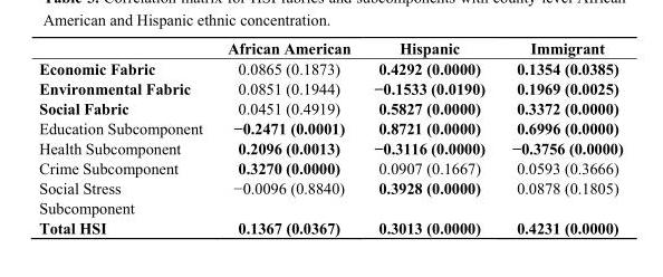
<table><thead><tr><td></td><td>African American</td><td>Hispanic</td><td>Immigrant</td></tr></thead><tbody><tr><td>Economic Fabric</td><td>0.0865 (0.1873)</td><td>0.4292 (0.0000)</td><td>0.1354 (0.0385)</td></tr><tr><td>Environmental Fabric</td><td>0.0851 (0.1944)</td><td>−0.1533 (0.0190)</td><td>0.1969 (0.0025)</td></tr><tr><td>Social Fabric</td><td>0.0451 (0.4919)</td><td>0.5827 (0.0000)</td><td>0.3372 (0.0000)</td></tr><tr><td>Education Subcomponent</td><td>−0.2471 (0.0001)</td><td>0.8721 (0.0000)</td><td>0.6996 (0.0000)</td></tr><tr><td>Health Subcomponent</td><td>0.2096 (0.0013)</td><td>−0.3116 (0.0000)</td><td>−0.3756 (0.0000)</td></tr><tr><td>Crime Subcomponent</td><td>0.3270 (0.0000)</td><td>0.0907 (0.1667)</td><td>0.0593 (0.3666)</td></tr><tr><td>Social Stress Subcomponent</td><td>−0.0096 (0.8840)</td><td>0.3928 (0.0000)</td><td>0.0878 (0.1805)</td></tr><tr><td>Total HSI</td><td>0.1367 (0.0367)</td><td>0.3013 (0.0000)</td><td>0.4231 (0.0000)</td></tr></tbody></table>